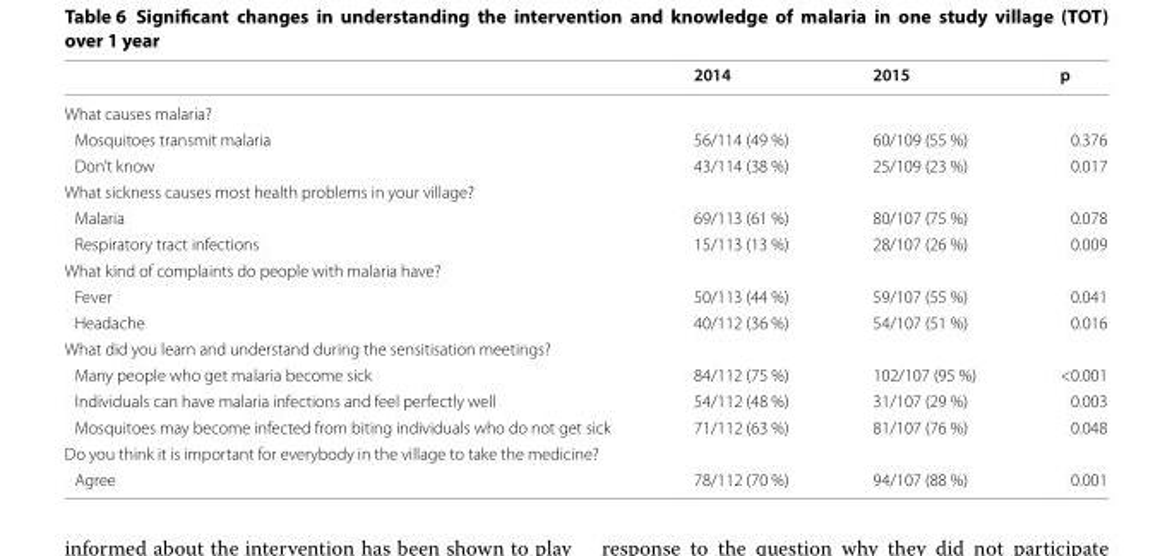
<table><thead><tr><td></td><td>2014</td><td>2015</td><td>p</td></tr></thead><tbody><tr><td colspan="4">What causes malaria?</td></tr><tr><td>Mosquitoes transmit malaria</td><td>56/114 (49 %)</td><td>60/109 (55 %)</td><td>0.376</td></tr><tr><td>Don’t know</td><td>43/114 (38 %)</td><td>25/109 (23 %)</td><td>0.017</td></tr><tr><td colspan="4">What sickness causes most health problems in your village?</td></tr><tr><td>Malaria</td><td>69/113 (61 %)</td><td>80/107 (75 %)</td><td>0.078</td></tr><tr><td>Respiratory tract infections</td><td>15/113 (13 %)</td><td>28/107 (26 %)</td><td>0.009</td></tr><tr><td colspan="4">What kind of complaints do people with malaria have?</td></tr><tr><td>Fever</td><td>50/113 (44 %)</td><td>59/107 (55 %)</td><td>0.041</td></tr><tr><td>Headache</td><td>40/112 (36 %)</td><td>54/107 (51 %)</td><td>0.016</td></tr><tr><td colspan="4">What did you learn and understand during the sensitisation meetings?</td></tr><tr><td>Many people who get malaria become sick</td><td>84/112 (75 %)</td><td>102/107 (95 %)</td><td>&lt;0.001</td></tr><tr><td>Individuals can have malaria infections and feel perfectly well</td><td>54/112 (48 %)</td><td>31/107 (29 %)</td><td>0.003</td></tr><tr><td>Mosquitoes may become infected from biting individuals who do not get sick</td><td>71/112 (63 %)</td><td>81/107 (76 %)</td><td>0.048</td></tr><tr><td colspan="4">Do you think it is important for everybody in the village to take the medicine?</td></tr><tr><td>Agree</td><td>78/112 (70 %)</td><td>94/107 (88 %)</td><td>0.001</td></tr></tbody></table>